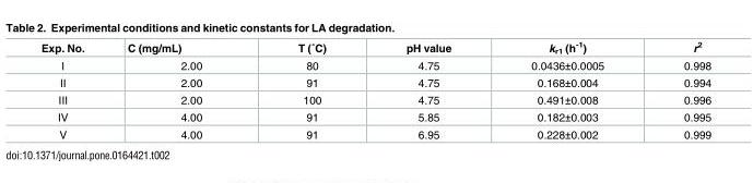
<table><thead><tr><td>Exp. No.</td><td>C (mg/mL)</td><td>T (˚C)</td><td>pH value</td><td>k<sub>r1</sub> (h<sup>-1</sup>)</td><td>r<sup>2</sup></td></tr></thead><tbody><tr><td>I</td><td>2.00</td><td>80</td><td>4.75</td><td>0.0436±0.0005</td><td>0.998</td></tr><tr><td>II</td><td>2.00</td><td>91</td><td>4.75</td><td>0.168±0.004</td><td>0.994</td></tr><tr><td>III</td><td>2.00</td><td>100</td><td>4.75</td><td>0.491±0.008</td><td>0.996</td></tr><tr><td>IV</td><td>4.00</td><td>91</td><td>5.85</td><td>0.182±0.003</td><td>0.995</td></tr><tr><td>V</td><td>4.00</td><td>91</td><td>6.95</td><td>0.228±0.002</td><td>0.999</td></tr></tbody></table>